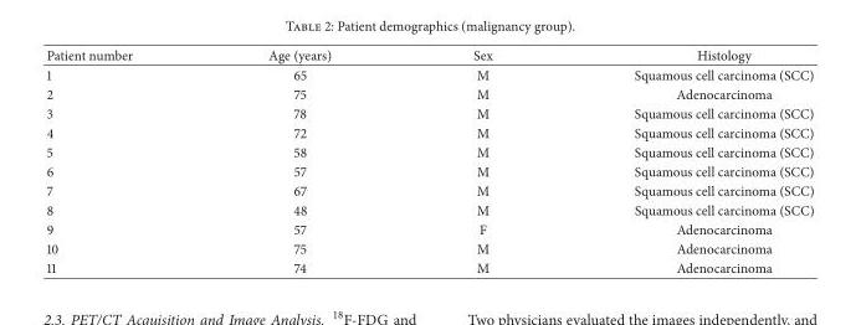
<table><thead><tr><td>Patient number</td><td>Age (years)</td><td>Sex</td><td>Histology</td></tr></thead><tbody><tr><td>1</td><td>65</td><td>M</td><td>Squamous cell carcinoma (SCC)</td></tr><tr><td>2</td><td>75</td><td>M</td><td>Adenocarcinoma</td></tr><tr><td>3</td><td>78</td><td>M</td><td>Squamous cell carcinoma (SCC)</td></tr><tr><td>4</td><td>72</td><td>M</td><td>Squamous cell carcinoma (SCC)</td></tr><tr><td>5</td><td>58</td><td>M</td><td>Squamous cell carcinoma (SCC)</td></tr><tr><td>6</td><td>57</td><td>M</td><td>Squamous cell carcinoma (SCC)</td></tr><tr><td>7</td><td>67</td><td>M</td><td>Squamous cell carcinoma (SCC)</td></tr><tr><td>8</td><td>48</td><td>M</td><td>Squamous cell carcinoma (SCC)</td></tr><tr><td>9</td><td>57</td><td>F</td><td>Adenocarcinoma</td></tr><tr><td>10</td><td>75</td><td>M</td><td>Adenocarcinoma</td></tr><tr><td>11</td><td>74</td><td>M</td><td>Adenocarcinoma</td></tr></tbody></table>